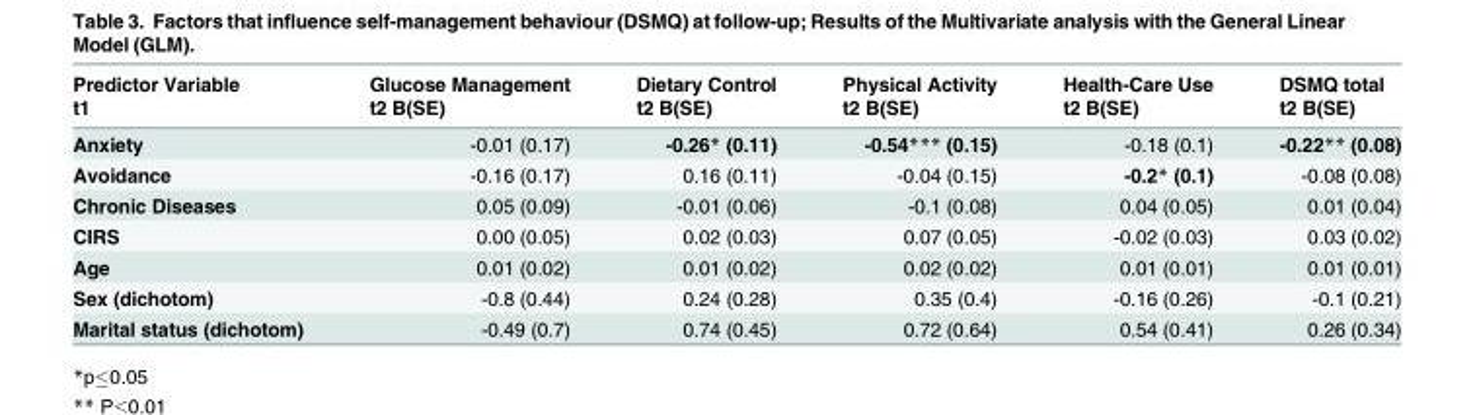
<table><thead><tr><td rowspan="2">Predictor Variable t1</td><td rowspan="2">Glucose Management t2 B(SE)</td><td rowspan="2">Dietary Control t2 B(SE)</td><td rowspan="2">Physical Activity t2 B(SE)</td><td rowspan="2">Health-Care Use t2 B(SE)</td><td rowspan="2">DSMQ total t2 B(SE)</td></tr><tr></tr></thead><tbody><tr><td>Anxiety</td><td>-0.01 (0.17)</td><td>-0.26* (0.11)</td><td>-0.54*** (0.15)</td><td>-0.18 (0.1)</td><td>-0.22** (0.08)</td></tr><tr><td>Avoidance</td><td>-0.16 (0.17)</td><td>0.16 (0.11)</td><td>-0.04 (0.15)</td><td>-0.2* (0.1)</td><td>-0.08 (0.08)</td></tr><tr><td>Chronic Diseases</td><td>0.05 (0.09)</td><td>-0.01 (0.06)</td><td>-0.1 (0.08)</td><td>0.04 (0.05)</td><td>0.01 (0.04)</td></tr><tr><td>CIRS</td><td>0.00 (0.05)</td><td>0.02 (0.03)</td><td>0.07 (0.05)</td><td>-0.02 (0.03)</td><td>0.03 (0.02)</td></tr><tr><td>Age</td><td>0.01 (0.02)</td><td>0.01 (0.02)</td><td>0.02 (0.02)</td><td>0.01 (0.01)</td><td>0.01 (0.01)</td></tr><tr><td>Sex (dichotom)</td><td>-0.8 (0.44)</td><td>0.24 (0.28)</td><td>0.35 (0.4)</td><td>-0.16 (0.26)</td><td>-0.1 (0.21)</td></tr><tr><td>Marital status (dichotom)</td><td>-0.49 (0.7)</td><td>0.74 (0.45)</td><td>0.72 (0.64)</td><td>0.54 (0.41)</td><td>0.26 (0.34)</td></tr></tbody></table>